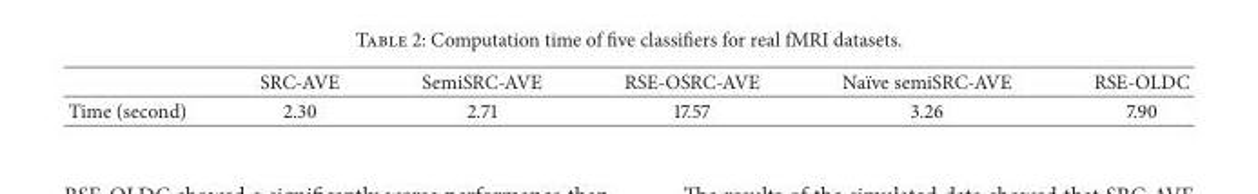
<table><thead><tr><td></td><td>SRC-AVE</td><td>SemiSRC-AVE</td><td>RSE-OSRC-AVE</td><td>Na¨ıve semiSRC-AVE</td><td>RSE-OLDC</td></tr></thead><tbody><tr><td>Time (second)</td><td>2.30</td><td>2.71</td><td>17.57</td><td>3.26</td><td>7.90</td></tr></tbody></table>